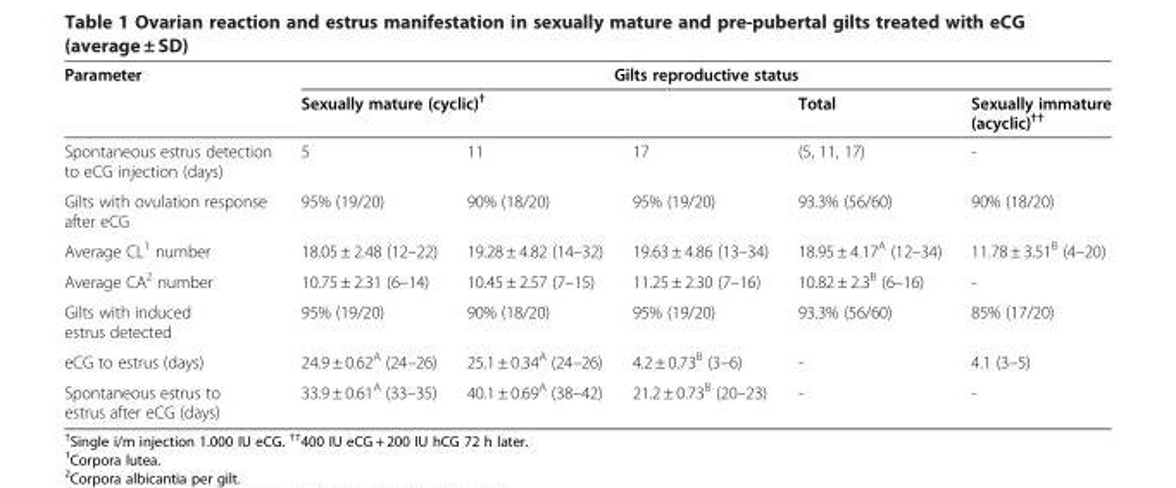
<table><thead><tr><td rowspan="3">Parameter Spontaneous estrus detection to eCG injection (days)</td><td colspan="5">Gilts reproductive status</td></tr><tr><td colspan="3">Sexually mature (cyclic)<sup>†</sup></td><td rowspan="2">Total (5, 11, 17)</td><td rowspan="2">Sexually immature (acyclic)<sup>††</sup> -</td></tr><tr><td>5</td><td>11</td><td>17</td></tr></thead><tbody><tr><td>Gilts with ovulation response after eCG</td><td>95% (19/20)</td><td>90% (18/20)</td><td>95% (19/20)</td><td>93.3% (56/60)</td><td>90% (18/20)</td></tr><tr><td>Average CL<sup>1</sup> number</td><td>18.05 ± 2.48 (12–22)</td><td>19.28 ± 4.82 (14–32)</td><td>19.63 ± 4.86 (13–34)</td><td>18.95 ± 4.17<sup>A</sup> (12–34)</td><td>11.78 ± 3.51<sup>B</sup> (4–20)</td></tr><tr><td>Average CA<sup>2</sup> number</td><td>10.75 ± 2.31 (6–14)</td><td>10.45 ± 2.57 (7–15)</td><td>11.25 ± 2.30 (7–16)</td><td>10.82 ± 2.3<sup>B</sup> (6–16)</td><td>-</td></tr><tr><td>Gilts with induced estrus detected</td><td>95% (19/20)</td><td>90% (18/20)</td><td>95% (19/20)</td><td>93.3% (56/60)</td><td>85% (17/20)</td></tr><tr><td>eCG to estrus (days)</td><td>24.9 ± 0.62<sup>A</sup> (24–26)</td><td>25.1 ± 0.34<sup>A</sup> (24–26)</td><td>4.2 ± 0.73<sup>B</sup> (3–6)</td><td>-</td><td>4.1 (3–5)</td></tr><tr><td>Spontaneous estrus to estrus after eCG (days)</td><td>33.9 ± 0.61<sup>A</sup> (33–35)</td><td>40.1 ± 0.69<sup>A</sup> (38–42)</td><td>21.2 ± 0.73<sup>B</sup> (20–23)</td><td>-</td><td>-</td></tr></tbody></table>